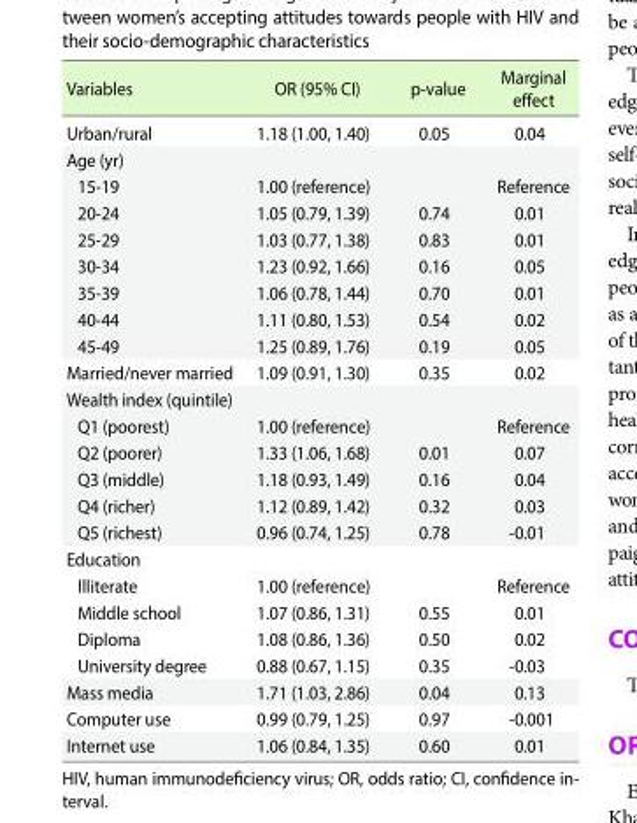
<table><thead><tr><td>Variables</td><td>OR (95% CI)</td><td>p-value</td><td>Marginal effect</td></tr></thead><tbody><tr><td>Urban/rural</td><td>1.18 (1.00, 1.40)</td><td>0.05</td><td>0.04</td></tr><tr><td colspan="4">Age (yr)</td></tr><tr><td>15-19</td><td>1.00 (reference)</td><td></td><td>Reference</td></tr><tr><td>20-24</td><td>1.05 (0.79, 1.39)</td><td>0.74</td><td>0.01</td></tr><tr><td>25-29</td><td>1.03 (0.77, 1.38)</td><td>0.83</td><td>0.01</td></tr><tr><td>30-34</td><td>1.23 (0.92, 1.66)</td><td>0.16</td><td>0.05</td></tr><tr><td>35-39</td><td>1.06 (0.78, 1.44)</td><td>0.70</td><td>0.01</td></tr><tr><td>40-44</td><td>1.11 (0.80, 1.53)</td><td>0.54</td><td>0.02</td></tr><tr><td>45-49</td><td>1.25 (0.89, 1.76)</td><td>0.19</td><td>0.05</td></tr><tr><td>Married/never married</td><td>1.09 (0.91, 1.30)</td><td>0.35</td><td>0.02</td></tr><tr><td colspan="4">Wealth index (quintile)</td></tr><tr><td>Q1 (poorest)</td><td>1.00 (reference)</td><td></td><td>Reference</td></tr><tr><td>Q2 (poorer)</td><td>1.33 (1.06, 1.68)</td><td>0.01</td><td>0.07</td></tr><tr><td>Q3 (middle)</td><td>1.18 (0.93, 1.49)</td><td>0.16</td><td>0.04</td></tr><tr><td>Q4 (richer)</td><td>1.12 (0.89, 1.42)</td><td>0.32</td><td>0.03</td></tr><tr><td>Q5 (richest)</td><td>0.96 (0.74, 1.25)</td><td>0.78</td><td>-0.01</td></tr><tr><td colspan="4">Education</td></tr><tr><td>Illiterate</td><td>1.00 (reference)</td><td></td><td>Reference</td></tr><tr><td>Middle school</td><td>1.07 (0.86, 1.31)</td><td>0.55</td><td>0.01</td></tr><tr><td>Diploma</td><td>1.08 (0.86, 1.36)</td><td>0.50</td><td>0.02</td></tr><tr><td>University degree</td><td>0.88 (0.67, 1.15)</td><td>0.35</td><td>-0.03</td></tr><tr><td>Mass media</td><td>1.71 (1.03, 2.86)</td><td>0.04</td><td>0.13</td></tr><tr><td>Computer use</td><td>0.99 (0.79, 1.25)</td><td>0.97</td><td>-0.001</td></tr><tr><td>Internet use</td><td>1.06 (0.84, 1.35)</td><td>0.60</td><td>0.01</td></tr></tbody></table>